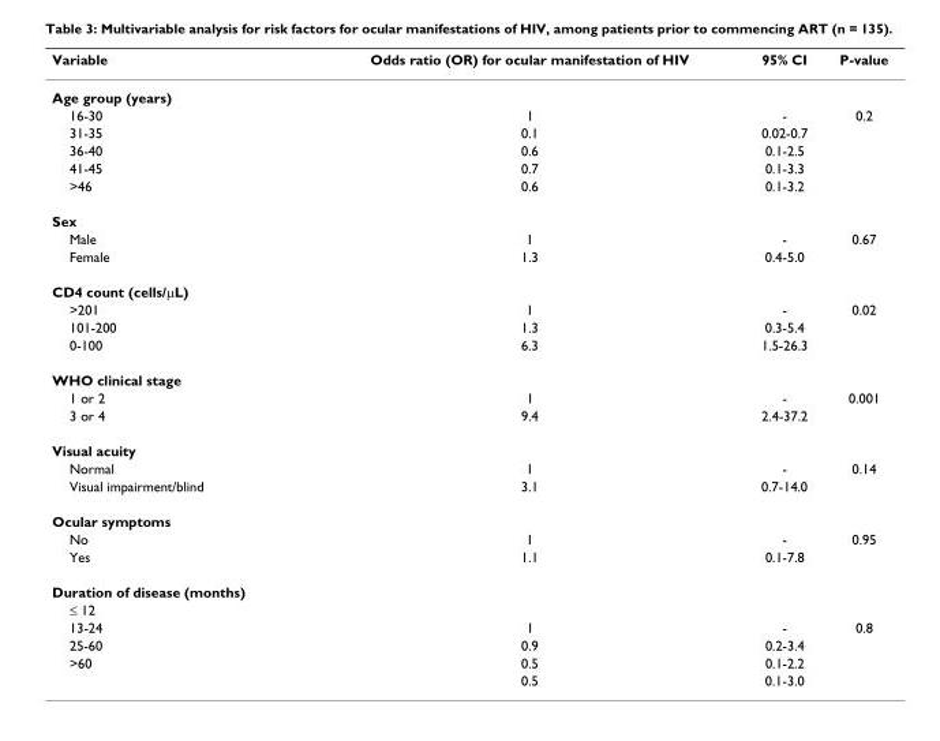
<table><thead><tr><td>Variable</td><td>Odds ratio (OR) for ocular manifestation of HIV</td><td>95% CI</td><td>P-value</td></tr></thead><tbody><tr><td colspan="4">Age group (years)</td></tr><tr><td>16-30</td><td>1</td><td>-</td><td>0.2</td></tr><tr><td>31-35</td><td>0.1</td><td>0.02-0.7</td><td></td></tr><tr><td>36-40</td><td>0.6</td><td>0.1-2.5</td><td></td></tr><tr><td>41-45</td><td>0.7</td><td>0.1-3.3</td><td></td></tr><tr><td>&gt;46</td><td>0.6</td><td>0.1-3.2</td><td></td></tr><tr><td colspan="4">Sex</td></tr><tr><td>Male</td><td>1</td><td>-</td><td>0.67</td></tr><tr><td>Female</td><td>1.3</td><td>0.4-5.0</td><td></td></tr><tr><td colspan="4">CD4 count (cells/μL)</td></tr><tr><td>&gt;201</td><td>1</td><td>-</td><td>0.02</td></tr><tr><td>101-200</td><td>1.3</td><td>0.3-5.4</td><td></td></tr><tr><td>0-100</td><td>6.3</td><td>1.5-26.3</td><td></td></tr><tr><td colspan="4">WHO clinical stage</td></tr><tr><td>1 or 2</td><td>1</td><td>-</td><td>0.001</td></tr><tr><td>3 or 4</td><td>9.4</td><td>2.4-37.2</td><td></td></tr><tr><td colspan="4">Visual acuity</td></tr><tr><td>Normal</td><td>1</td><td>-</td><td>0.14</td></tr><tr><td>Visual impairment/blind</td><td>3.1</td><td>0.7-14.0</td><td></td></tr><tr><td colspan="4">Ocular symptoms</td></tr><tr><td>No</td><td>1</td><td>-</td><td>0.95</td></tr><tr><td>Yes</td><td>1.1</td><td>0.1-7.8</td><td></td></tr><tr><td colspan="4">Duration of disease (months)</td></tr><tr><td colspan="4">≤ 12</td></tr><tr><td>13-24</td><td>1</td><td>-</td><td>0.8</td></tr><tr><td>25-60</td><td>0.9</td><td>0.2-3.4</td><td></td></tr><tr><td rowspan="2">&gt;60</td><td>0.5</td><td>0.1-2.2</td><td></td></tr><tr><td>0.5</td><td>0.1-3.0</td><td></td></tr></tbody></table>